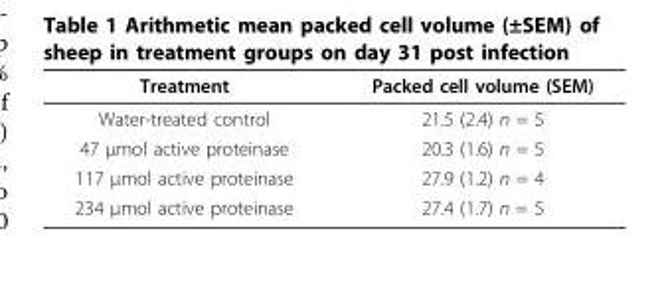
<table><thead><tr><td>Treatment</td><td>Packed cell volume (SEM)</td></tr></thead><tbody><tr><td>Water-treated control</td><td>21.5 (2.4) n = 5</td></tr><tr><td>47 μmol active proteinase</td><td>20.3 (1.6) n = 5</td></tr><tr><td>117 μmol active proteinase</td><td>27.9 (1.2) n = 4</td></tr><tr><td>234 μmol active proteinase</td><td>27.4 (1.7) n = 5</td></tr></tbody></table>